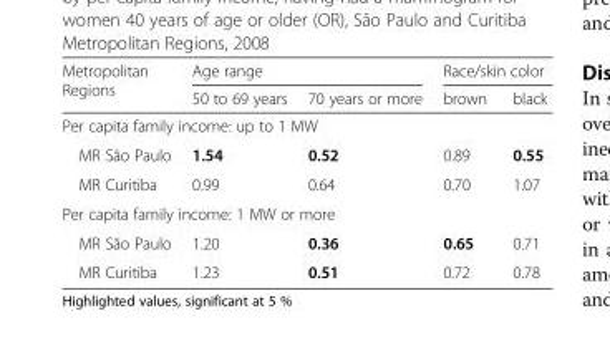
<table><thead><tr><td rowspan="2">Metropolitan Regions</td><td colspan="2">Age range</td><td colspan="2">Race/skin color</td></tr><tr><td>50 to 69 years</td><td>70 years or more</td><td>brown</td><td>black</td></tr></thead><tbody><tr><td colspan="5">Per capita family income: up to 1 MW</td></tr><tr><td>MR São Paulo</td><td>1.54</td><td>0.52</td><td>0.89</td><td>0.55</td></tr><tr><td>MR Curitiba</td><td>0.99</td><td>0.64</td><td>0.70</td><td>1.07</td></tr><tr><td colspan="5">Per capita family income: 1 MW or more</td></tr><tr><td>MR São Paulo</td><td>1.20</td><td>0.36</td><td>0.65</td><td>0.71</td></tr><tr><td>MR Curitiba</td><td>1.23</td><td>0.51</td><td>0.72</td><td>0.78</td></tr></tbody></table>